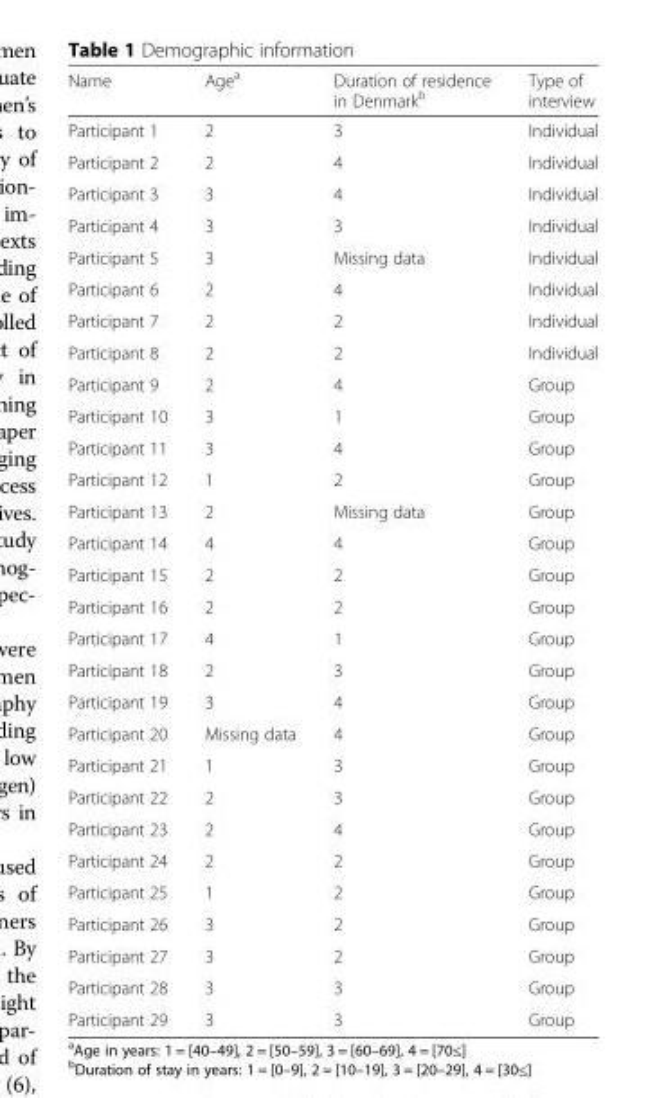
<table><thead><tr><td>Name</td><td>Age<sup>a</sup></td><td>Duration of residence in Denmark<sup>b</sup></td><td>Type of interview</td></tr></thead><tbody><tr><td>Participant 1</td><td>2</td><td>3</td><td>Individual</td></tr><tr><td>Participant 2</td><td>2</td><td>4</td><td>Individual</td></tr><tr><td>Participant 3</td><td>3</td><td>4</td><td>Individual</td></tr><tr><td>Participant 4</td><td>3</td><td>3</td><td>Individual</td></tr><tr><td>Participant 5</td><td>3</td><td>Missing data</td><td>Individual</td></tr><tr><td>Participant 6</td><td>2</td><td>4</td><td>Individual</td></tr><tr><td>Participant 7</td><td>2</td><td>2</td><td>Individual</td></tr><tr><td>Participant 8</td><td>2</td><td>2</td><td>Individual</td></tr><tr><td>Participant 9</td><td>2</td><td>4</td><td>Group</td></tr><tr><td>Participant 10</td><td>3</td><td>1</td><td>Group</td></tr><tr><td>Participant 11</td><td>3</td><td>4</td><td>Group</td></tr><tr><td>Participant 12</td><td>1</td><td>2</td><td>Group</td></tr><tr><td>Participant 13</td><td>2</td><td>Missing data</td><td>Group</td></tr><tr><td>Participant 14</td><td>4</td><td>4</td><td>Group</td></tr><tr><td>Participant 15</td><td>2</td><td>2</td><td>Group</td></tr><tr><td>Participant 16</td><td>2</td><td>2</td><td>Group</td></tr><tr><td>Participant 17</td><td>4</td><td>1</td><td>Group</td></tr><tr><td>Participant 18</td><td>2</td><td>3</td><td>Group</td></tr><tr><td>Participant 19</td><td>3</td><td>4</td><td>Group</td></tr><tr><td>Participant 20</td><td>Missing data</td><td>4</td><td>Group</td></tr><tr><td>Participant 21</td><td>1</td><td>3</td><td>Group</td></tr><tr><td>Participant 22</td><td>2</td><td>3</td><td>Group</td></tr><tr><td>Participant 23</td><td>2</td><td>4</td><td>Group</td></tr><tr><td>Participant 24</td><td>2</td><td>2</td><td>Group</td></tr><tr><td>Participant 25</td><td>1</td><td>2</td><td>Group</td></tr><tr><td>Participant 26</td><td>3</td><td>2</td><td>Group</td></tr><tr><td>Participant 27</td><td>3</td><td>2</td><td>Group</td></tr><tr><td>Participant 28</td><td>3</td><td>3</td><td>Group</td></tr><tr><td>Participant 29</td><td>3</td><td>3</td><td>Group</td></tr></tbody></table>